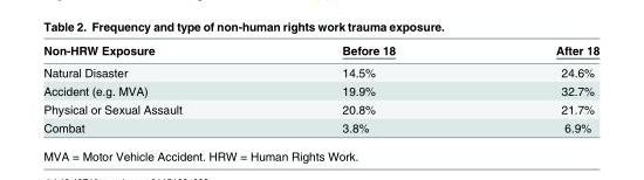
<table><thead><tr><td>Non-HRW Exposure</td><td>Before 18</td><td>After 18</td></tr></thead><tbody><tr><td>Natural Disaster</td><td>14.5%</td><td>24.6%</td></tr><tr><td>Accident (e.g. MVA)</td><td>19.9%</td><td>32.7%</td></tr><tr><td>Physical or Sexual Assault</td><td>20.8%</td><td>21.7%</td></tr><tr><td>Combat</td><td>3.8%</td><td>6.9%</td></tr></tbody></table>